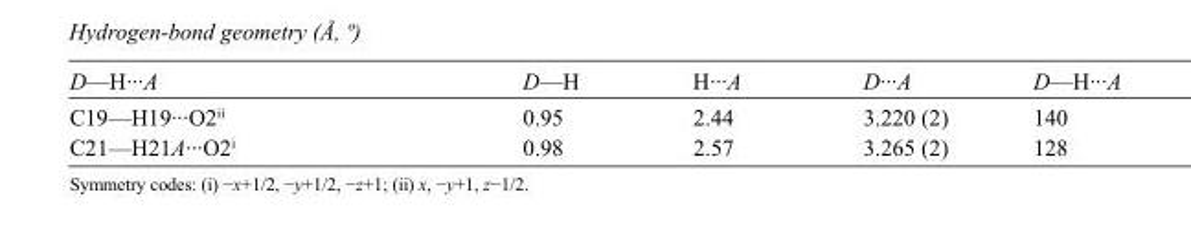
<table><tbody><tr><td>D—H···A</td><td>D—H</td><td>H···A</td><td>D···A</td><td>D—H···A</td></tr><tr><td>C19—H19···O2<sup>ii</sup></td><td>0.95</td><td>2.44</td><td>3.220 (2)</td><td>140</td></tr><tr><td>C21—H21A···O2<sup>i</sup></td><td>0.98</td><td>2.57</td><td>3.265 (2)</td><td>128</td></tr></tbody></table>